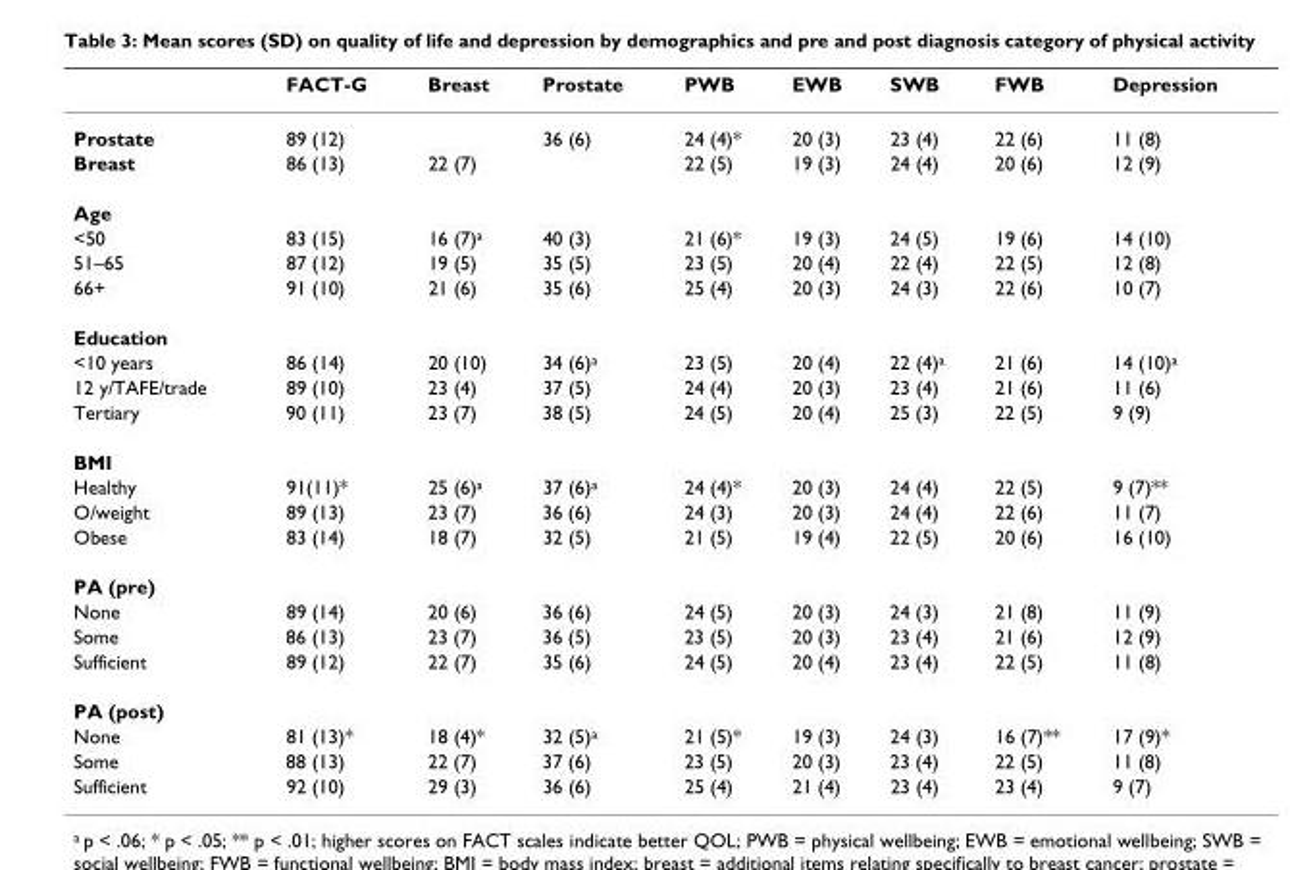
<table><thead><tr><td></td><td>FACT-G</td><td>Breast</td><td>Prostate</td><td>PWB</td><td>EWB</td><td>SWB</td><td>FWB</td><td>Depression</td></tr></thead><tbody><tr><td>Prostate</td><td>89 (12)</td><td></td><td>36 (6)</td><td>24 (4)*</td><td>20 (3)</td><td>23 (4)</td><td>22 (6)</td><td>11 (8)</td></tr><tr><td>Breast</td><td>86 (13)</td><td>22 (7)</td><td></td><td>22 (5)</td><td>19 (3)</td><td>24 (4)</td><td>20 (6)</td><td>12 (9)</td></tr><tr><td colspan="9">Age</td></tr><tr><td>&lt;50</td><td>83 (15)</td><td>16 (7)<sup>a</sup></td><td>40 (3)</td><td>21 (6)*</td><td>19 (3)</td><td>24 (5)</td><td>19 (6)</td><td>14 (10)</td></tr><tr><td>51–65</td><td>87 (12)</td><td>19 (5)</td><td>35 (5)</td><td>23 (5)</td><td>20 (4)</td><td>22 (4)</td><td>22 (5)</td><td>12 (8)</td></tr><tr><td>66+</td><td>91 (10)</td><td>21 (6)</td><td>35 (6)</td><td>25 (4)</td><td>20 (3)</td><td>24 (3)</td><td>22 (6)</td><td>10 (7)</td></tr><tr><td colspan="9">Education</td></tr><tr><td>&lt;10 years</td><td>86 (14)</td><td>20 (10)</td><td>34 (6)<sup>a</sup></td><td>23 (5)</td><td>20 (4)</td><td>22 (4)<sup>a</sup></td><td>21 (6)</td><td>14 (10)<sup>a</sup></td></tr><tr><td>12 y/TAFE/trade</td><td>89 (10)</td><td>23 (4)</td><td>37 (5)</td><td>24 (4)</td><td>20 (3)</td><td>23 (4)</td><td>21 (6)</td><td>11 (6)</td></tr><tr><td>Tertiary</td><td>90 (11)</td><td>23 (7)</td><td>38 (5)</td><td>24 (5)</td><td>20 (4)</td><td>25 (3)</td><td>22 (5)</td><td>9 (9)</td></tr><tr><td colspan="9">BMI</td></tr><tr><td>Healthy</td><td>91(11)*</td><td>25 (6)<sup>a</sup></td><td>37 (6)<sup>a</sup></td><td>24 (4)*</td><td>20 (3)</td><td>24 (4)</td><td>22 (5)</td><td>9 (7)**</td></tr><tr><td>O/weight</td><td>89 (13)</td><td>23 (7)</td><td>36 (6)</td><td>24 (3)</td><td>20 (3)</td><td>24 (4)</td><td>22 (6)</td><td>11 (7)</td></tr><tr><td>Obese</td><td>83 (14)</td><td>18 (7)</td><td>32 (5)</td><td>21 (5)</td><td>19 (4)</td><td>22 (5)</td><td>20 (6)</td><td>16 (10)</td></tr><tr><td colspan="9">PA (pre)</td></tr><tr><td>None</td><td>89 (14)</td><td>20 (6)</td><td>36 (6)</td><td>24 (5)</td><td>20 (3)</td><td>24 (3)</td><td>21 (8)</td><td>11 (9)</td></tr><tr><td>Some</td><td>86 (13)</td><td>23 (7)</td><td>36 (5)</td><td>23 (5)</td><td>20 (3)</td><td>23 (4)</td><td>21 (6)</td><td>12 (9)</td></tr><tr><td>Sufficient</td><td>89 (12)</td><td>22 (7)</td><td>35 (6)</td><td>24 (5)</td><td>20 (4)</td><td>23 (4)</td><td>22 (5)</td><td>11 (8)</td></tr><tr><td colspan="9">PA (post)</td></tr><tr><td>None</td><td>81 (13)*</td><td>18 (4)*</td><td>32 (5)<sup>a</sup></td><td>21 (5)*</td><td>19 (3)</td><td>24 (3)</td><td>16 (7)**</td><td>17 (9)*</td></tr><tr><td>Some</td><td>88 (13)</td><td>22 (7)</td><td>37 (6)</td><td>23 (5)</td><td>20 (3)</td><td>23 (4)</td><td>22 (5)</td><td>11 (8)</td></tr><tr><td>Sufficient</td><td>92 (10)</td><td>29 (3)</td><td>36 (6)</td><td>25 (4)</td><td>21 (4)</td><td>23 (4)</td><td>23 (4)</td><td>9 (7)</td></tr></tbody></table>